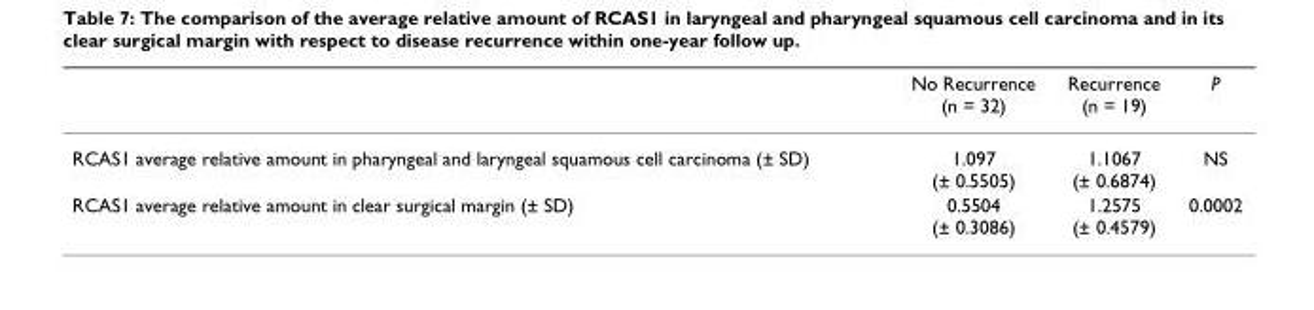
<table><thead><tr><td></td><td>No Recurrence (n = 32)</td><td>Recurrence (n = 19)</td><td>P</td></tr></thead><tbody><tr><td>RCAS1 average relative amount in pharyngeal and laryngeal squamous cell carcinoma (± SD)</td><td>1.097 (± 0.5505)</td><td>1.1067 (± 0.6874)</td><td>NS</td></tr><tr><td>RCAS1 average relative amount in clear surgical margin (± SD)</td><td>0.5504 (± 0.3086)</td><td>1.2575 (± 0.4579)</td><td>0.0002</td></tr></tbody></table>